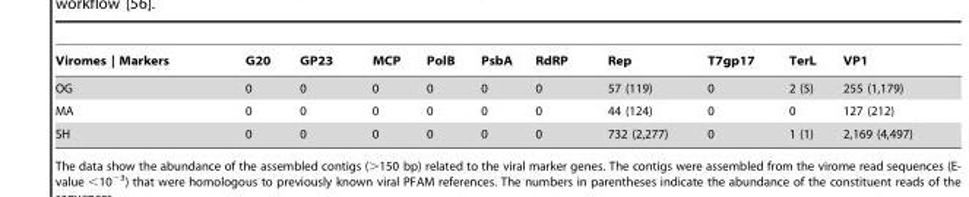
<table><thead><tr><td>Viromes | Markers</td><td>G20</td><td>GP23</td><td>MCP</td><td>PolB</td><td>PsbA</td><td>RdRP</td><td>Rep</td><td>T7gp17</td><td>TerL</td><td>VP1</td></tr></thead><tbody><tr><td>OG</td><td>0</td><td>0</td><td>0</td><td>0</td><td>0</td><td>0</td><td>57 (119)</td><td>0</td><td>2 (5)</td><td>255 (1,179)</td></tr><tr><td>MA</td><td>0</td><td>0</td><td>0</td><td>0</td><td>0</td><td>0</td><td>44 (124)</td><td>0</td><td>0</td><td>127 (212)</td></tr><tr><td>SH</td><td>0</td><td>0</td><td>0</td><td>0</td><td>0</td><td>0</td><td>732 (2,277)</td><td>0</td><td>1 (1)</td><td>2,169 (4,497)</td></tr></tbody></table>